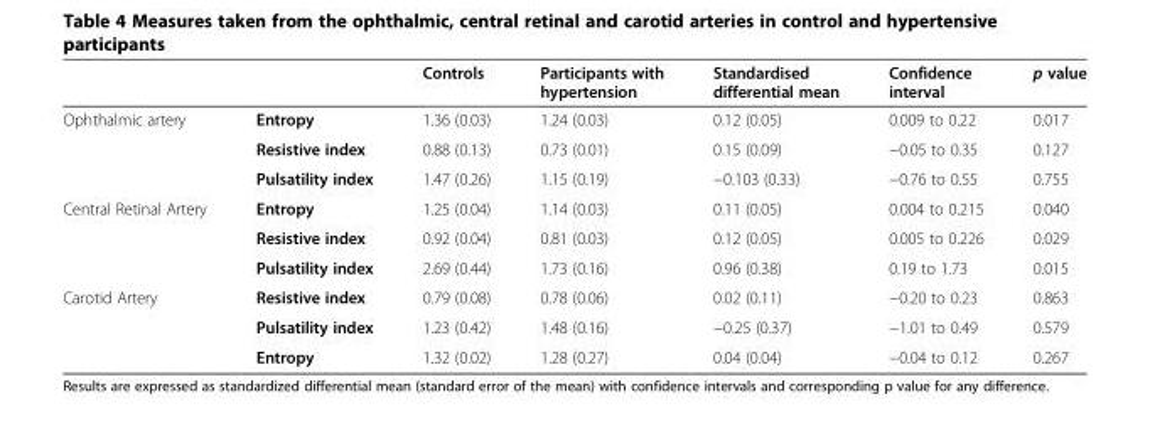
<table><thead><tr><td></td><td></td><td>Controls</td><td>Participants with hypertension</td><td>Standardised differential mean</td><td>Confidence interval</td><td>p value</td></tr></thead><tbody><tr><td rowspan="3">Ophthalmic artery</td><td>Entropy</td><td>1.36 (0.03)</td><td>1.24 (0.03)</td><td>0.12 (0.05)</td><td>0.009 to 0.22</td><td>0.017</td></tr><tr><td>Resistive index</td><td>0.88 (0.13)</td><td>0.73 (0.01)</td><td>0.15 (0.09)</td><td>−0.05 to 0.35</td><td>0.127</td></tr><tr><td>Pulsatility index</td><td>1.47 (0.26)</td><td>1.15 (0.19)</td><td>−0.103 (0.33)</td><td>−0.76 to 0.55</td><td>0.755</td></tr><tr><td rowspan="3">Central Retinal Artery</td><td>Entropy</td><td>1.25 (0.04)</td><td>1.14 (0.03)</td><td>0.11 (0.05)</td><td>0.004 to 0.215</td><td>0.040</td></tr><tr><td>Resistive index</td><td>0.92 (0.04)</td><td>0.81 (0.03)</td><td>0.12 (0.05)</td><td>0.005 to 0.226</td><td>0.029</td></tr><tr><td>Pulsatility index</td><td>2.69 (0.44)</td><td>1.73 (0.16)</td><td>0.96 (0.38)</td><td>0.19 to 1.73</td><td>0.015</td></tr><tr><td rowspan="3">Carotid Artery</td><td>Resistive index</td><td>0.79 (0.08)</td><td>0.78 (0.06)</td><td>0.02 (0.11)</td><td>−0.20 to 0.23</td><td>0.863</td></tr><tr><td>Pulsatility index</td><td>1.23 (0.42)</td><td>1.48 (0.16)</td><td>−0.25 (0.37)</td><td>−1.01 to 0.49</td><td>0.579</td></tr><tr><td>Entropy</td><td>1.32 (0.02)</td><td>1.28 (0.27)</td><td>0.04 (0.04)</td><td>−0.04 to 0.12</td><td>0.267</td></tr></tbody></table>